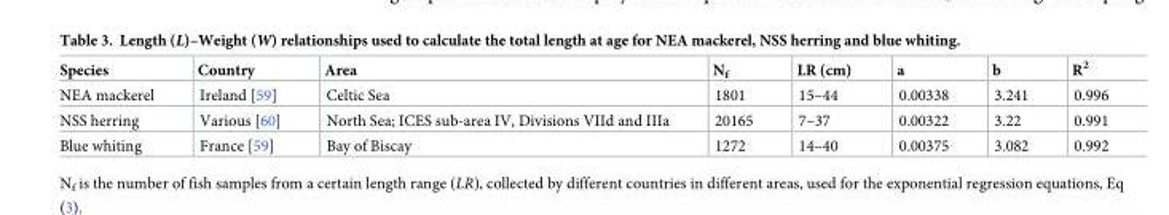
<table><thead><tr><td>Species</td><td>Country</td><td>Area</td><td>N<sub>f</sub></td><td>LR (cm)</td><td>a</td><td>b</td><td>R<sup>2</sup></td></tr></thead><tbody><tr><td>NEA mackerel</td><td>Ireland [59]</td><td>Celtic Sea</td><td>1801</td><td>15–44</td><td>0.00338</td><td>3.241</td><td>0.996</td></tr><tr><td>NSS herring</td><td>Various [60]</td><td>North Sea; ICES sub-area IV, Divisions VIId and IIIa</td><td>20165</td><td>7–37</td><td>0.00322</td><td>3.22</td><td>0.991</td></tr><tr><td>Blue whiting</td><td>France [59]</td><td>Bay of Biscay</td><td>1272</td><td>14–40</td><td>0.00375</td><td>3.082</td><td>0.992</td></tr></tbody></table>